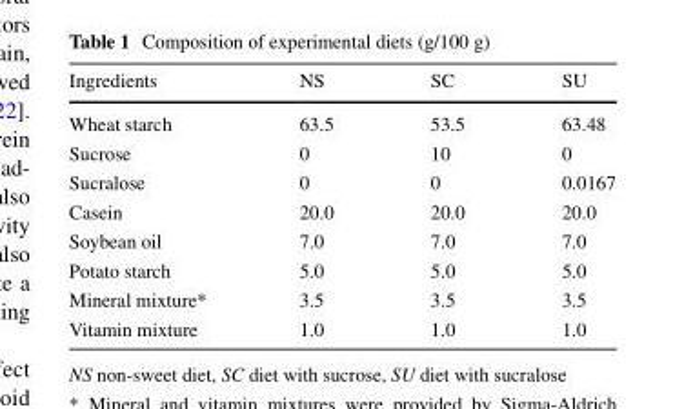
<table><thead><tr><td>Ingredients</td><td>NS</td><td>SC</td><td>SU</td></tr></thead><tbody><tr><td>Wheat starch</td><td>63.5</td><td>53.5</td><td>63.48</td></tr><tr><td>Sucrose</td><td>0</td><td>10</td><td>0</td></tr><tr><td>Sucralose</td><td>0</td><td>0</td><td>0.0167</td></tr><tr><td>Casein</td><td>20.0</td><td>20.0</td><td>20.0</td></tr><tr><td>Soybean oil</td><td>7.0</td><td>7.0</td><td>7.0</td></tr><tr><td>Potato starch</td><td>5.0</td><td>5.0</td><td>5.0</td></tr><tr><td>Mineral mixture*</td><td>3.5</td><td>3.5</td><td>3.5</td></tr><tr><td>Vitamin mixture</td><td>1.0</td><td>1.0</td><td>1.0</td></tr></tbody></table>